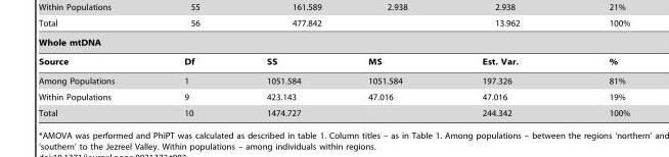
<table><thead><tr><td colspan="6">Whole mtDNA</td></tr><tr><td>Source</td><td>Df</td><td>SS</td><td>MS</td><td>Est. Var.</td><td>%</td></tr></thead><tbody><tr><td>Among Populations</td><td>1</td><td>1051.584</td><td>1051.584</td><td>197.326</td><td>81%</td></tr><tr><td>Within Populations</td><td>9</td><td>423.143</td><td>47.016</td><td>47.016</td><td>19%</td></tr><tr><td>Total</td><td>10</td><td>1474.727</td><td></td><td>244.342</td><td>100%</td></tr></tbody></table>